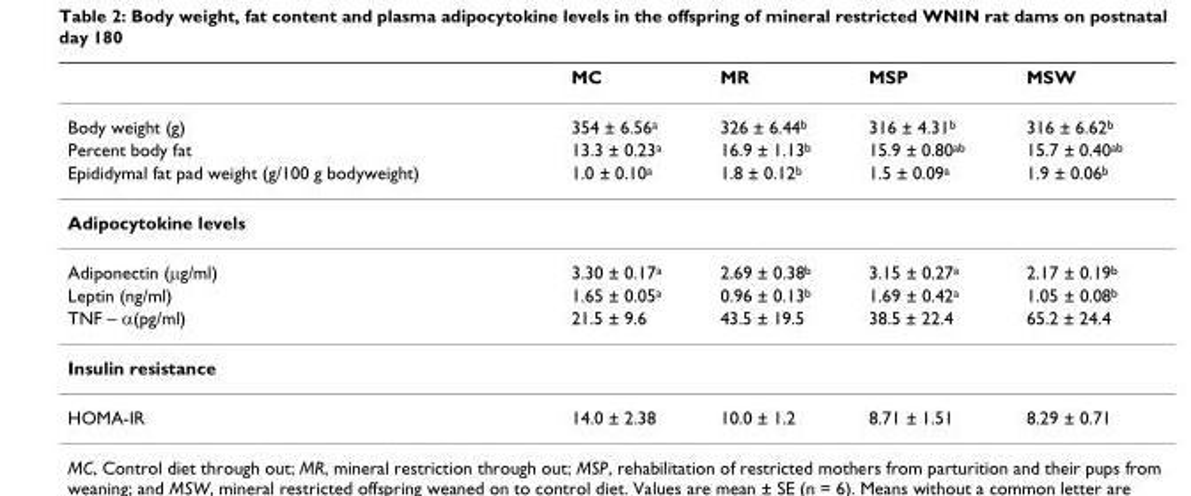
<table><thead><tr><td></td><td>MC</td><td>MR</td><td>MSP</td><td>MSW</td></tr></thead><tbody><tr><td>Body weight (g)</td><td>354 ± 6.56<sup>a</sup></td><td>326 ± 6.44<sup>b</sup></td><td>316 ± 4.31<sup>b</sup></td><td>316 ± 6.62<sup>b</sup></td></tr><tr><td>Percent body fat</td><td>13.3 ± 0.23<sup>a</sup></td><td>16.9 ± 1.13<sup>b</sup></td><td>15.9 ± 0.80<sup>ab</sup></td><td>15.7 ± 0.40<sup>ab</sup></td></tr><tr><td>Epididymal fat pad weight (g/100 g bodyweight)</td><td>1.0 ± 0.10<sup>a</sup></td><td>1.8 ± 0.12<sup>b</sup></td><td>1.5 ± 0.09<sup>a</sup></td><td>1.9 ± 0.06<sup>b</sup></td></tr><tr><td colspan="5">Adipocytokine levels</td></tr><tr><td>Adiponectin (μg/ml)</td><td>3.30 ± 0.17<sup>a</sup></td><td>2.69 ± 0.38<sup>b</sup></td><td>3.15 ± 0.27<sup>a</sup></td><td>2.17 ± 0.19<sup>b</sup></td></tr><tr><td>Leptin (ng/ml)</td><td>1.65 ± 0.05<sup>a</sup></td><td>0.96 ± 0.13<sup>b</sup></td><td>1.69 ± 0.42<sup>a</sup></td><td>1.05 ± 0.08<sup>b</sup></td></tr><tr><td>TNF – α(pg/ml)</td><td>21.5 ± 9.6</td><td>43.5 ± 19.5</td><td>38.5 ± 22.4</td><td>65.2 ± 24.4</td></tr><tr><td colspan="5">Insulin resistance</td></tr><tr><td>HOMA-IR</td><td>14.0 ± 2.38</td><td>10.0 ± 1.2</td><td>8.71 ± 1.51</td><td>8.29 ± 0.71</td></tr></tbody></table>